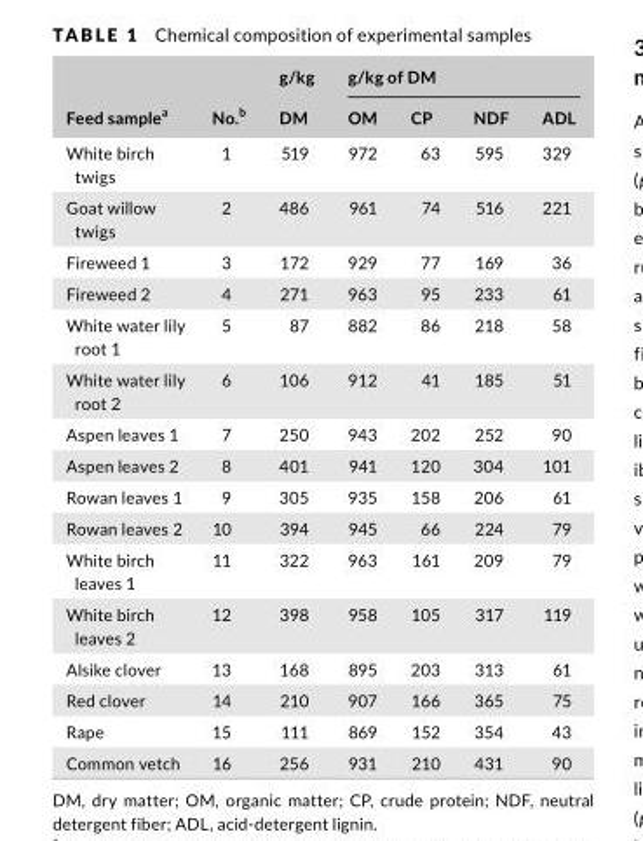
<table><thead><tr><td rowspan="2">Feed sample<sup>a</sup></td><td rowspan="2">No.<sup>b</sup></td><td rowspan="2">g/kg DM</td><td colspan="4">g/kg of DM</td></tr><tr><td>OM</td><td>CP</td><td>NDF</td><td>ADL</td></tr></thead><tbody><tr><td>White birch twigs</td><td>1</td><td>519</td><td>972</td><td>63</td><td>595</td><td>329</td></tr><tr><td>Goat willow twigs</td><td>2</td><td>486</td><td>961</td><td>74</td><td>516</td><td>221</td></tr><tr><td>Fireweed 1</td><td>3</td><td>172</td><td>929</td><td>77</td><td>169</td><td>36</td></tr><tr><td>Fireweed 2</td><td>4</td><td>271</td><td>963</td><td>95</td><td>233</td><td>61</td></tr><tr><td>White water lily root 1</td><td>5</td><td>87</td><td>882</td><td>86</td><td>218</td><td>58</td></tr><tr><td>White water lily root 2</td><td>6</td><td>106</td><td>912</td><td>41</td><td>185</td><td>51</td></tr><tr><td>Aspen leaves 1</td><td>7</td><td>250</td><td>943</td><td>202</td><td>252</td><td>90</td></tr><tr><td>Aspen leaves 2</td><td>8</td><td>401</td><td>941</td><td>120</td><td>304</td><td>101</td></tr><tr><td>Rowan leaves 1</td><td>9</td><td>305</td><td>935</td><td>158</td><td>206</td><td>61</td></tr><tr><td>Rowan leaves 2</td><td>10</td><td>394</td><td>945</td><td>66</td><td>224</td><td>79</td></tr><tr><td>White birch leaves 1</td><td>11</td><td>322</td><td>963</td><td>161</td><td>209</td><td>79</td></tr><tr><td>White birch leaves 2</td><td>12</td><td>398</td><td>958</td><td>105</td><td>317</td><td>119</td></tr><tr><td>Alsike clover</td><td>13</td><td>168</td><td>895</td><td>203</td><td>313</td><td>61</td></tr><tr><td>Red clover</td><td>14</td><td>210</td><td>907</td><td>166</td><td>365</td><td>75</td></tr><tr><td>Rape</td><td>15</td><td>111</td><td>869</td><td>152</td><td>354</td><td>43</td></tr><tr><td>Common vetch</td><td>16</td><td>256</td><td>931</td><td>210</td><td>431</td><td>90</td></tr></tbody></table>